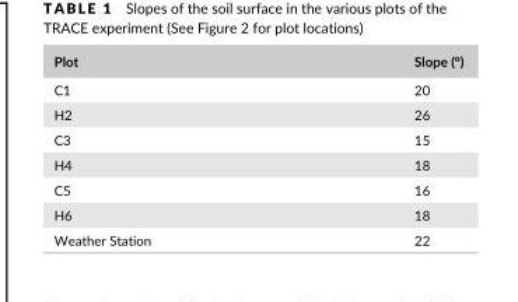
<table><thead><tr><td>Plot</td><td>Slope (°)</td></tr></thead><tbody><tr><td>C1</td><td>20</td></tr><tr><td>H2</td><td>26</td></tr><tr><td>C3</td><td>15</td></tr><tr><td>H4</td><td>18</td></tr><tr><td>C5</td><td>16</td></tr><tr><td>H6</td><td>18</td></tr><tr><td>Weather Station</td><td>22</td></tr></tbody></table>